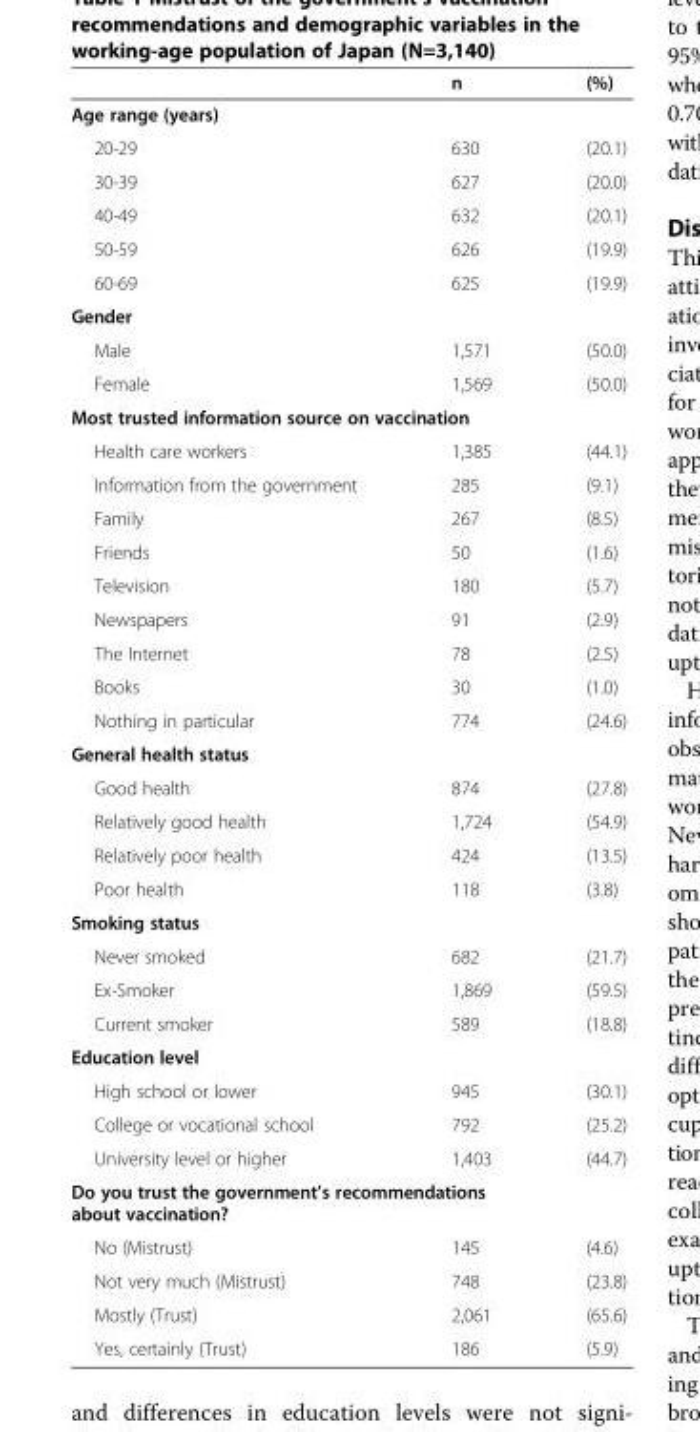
<table><thead><tr><td></td><td>n</td><td>(%)</td></tr></thead><tbody><tr><td colspan="3">Age range (years)</td></tr><tr><td>20-29</td><td>630</td><td>(20.1)</td></tr><tr><td>30-39</td><td>627</td><td>(20.0)</td></tr><tr><td>40-49</td><td>632</td><td>(20.1)</td></tr><tr><td>50-59</td><td>626</td><td>(19.9)</td></tr><tr><td>60-69</td><td>625</td><td>(19.9)</td></tr><tr><td colspan="3">Gender</td></tr><tr><td>Male</td><td>1,571</td><td>(50.0)</td></tr><tr><td>Female</td><td>1,569</td><td>(50.0)</td></tr><tr><td colspan="3">Most trusted information source on vaccination</td></tr><tr><td>Health care workers</td><td>1,385</td><td>(44.1)</td></tr><tr><td>Information from the government</td><td>285</td><td>(9.1)</td></tr><tr><td>Family</td><td>267</td><td>(8.5)</td></tr><tr><td>Friends</td><td>50</td><td>(1.6)</td></tr><tr><td>Television</td><td>180</td><td>(5.7)</td></tr><tr><td>Newspapers</td><td>91</td><td>(2.9)</td></tr><tr><td>The Internet</td><td>78</td><td>(2.5)</td></tr><tr><td>Books</td><td>30</td><td>(1.0)</td></tr><tr><td>Nothing in particular</td><td>774</td><td>(24.6)</td></tr><tr><td colspan="3">General health status</td></tr><tr><td>Good health</td><td>874</td><td>(27.8)</td></tr><tr><td>Relatively good health</td><td>1,724</td><td>(54.9)</td></tr><tr><td>Relatively poor health</td><td>424</td><td>(13.5)</td></tr><tr><td>Poor health</td><td>118</td><td>(3.8)</td></tr><tr><td colspan="3">Smoking status</td></tr><tr><td>Never smoked</td><td>682</td><td>(21.7)</td></tr><tr><td>Ex-Smoker</td><td>1,869</td><td>(59.5)</td></tr><tr><td>Current smoker</td><td>589</td><td>(18.8)</td></tr><tr><td colspan="3">Education level</td></tr><tr><td>High school or lower</td><td>945</td><td>(30.1)</td></tr><tr><td>College or vocational school</td><td>792</td><td>(25.2)</td></tr><tr><td>University level or higher</td><td>1,403</td><td>(44.7)</td></tr><tr><td colspan="3">Do you trust the government’s recommendations about vaccination?</td></tr><tr><td>No (Mistrust)</td><td>145</td><td>(4.6)</td></tr><tr><td>Not very much (Mistrust)</td><td>748</td><td>(23.8)</td></tr><tr><td>Mostly (Trust)</td><td>2,061</td><td>(65.6)</td></tr><tr><td>Yes, certainly (Trust)</td><td>186</td><td>(5.9)</td></tr></tbody></table>